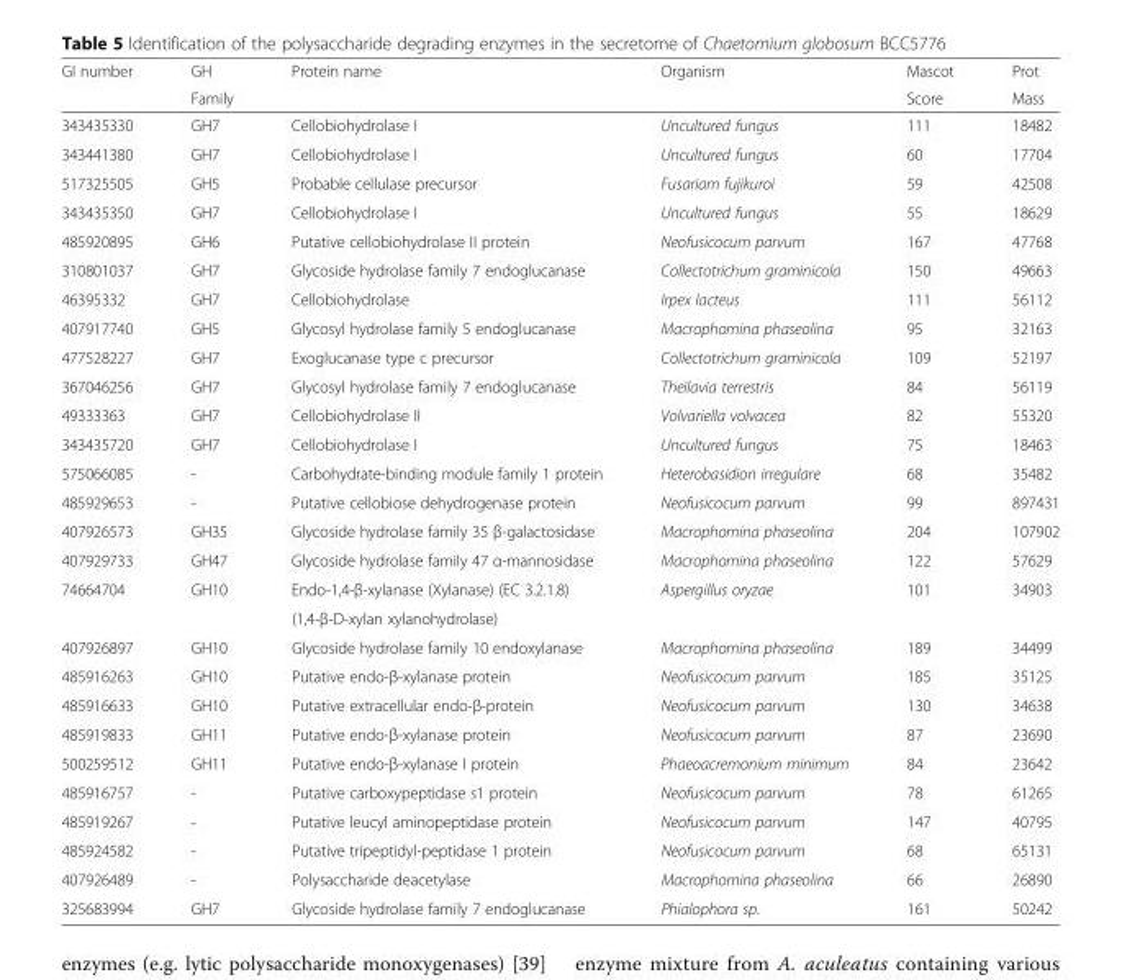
<table><thead><tr><td rowspan="2">GI number</td><td rowspan="2">GH Family</td><td rowspan="2">Protein name</td><td rowspan="2">Organism</td><td rowspan="2">Mascot Score</td><td rowspan="2">Prot Mass</td></tr><tr></tr></thead><tbody><tr><td>343435330</td><td>GH7</td><td>Cellobiohydrolase I</td><td>Uncultured fungus</td><td>111</td><td>18482</td></tr><tr><td>343441380</td><td>GH7</td><td>Cellobiohydrolase I</td><td>Uncultured fungus</td><td>60</td><td>17704</td></tr><tr><td>517325505</td><td>GH5</td><td>Probable cellulase precursor</td><td>Fusariam fujikuroi</td><td>59</td><td>42508</td></tr><tr><td>343435350</td><td>GH7</td><td>Cellobiohydrolase I</td><td>Uncultured fungus</td><td>55</td><td>18629</td></tr><tr><td>485920895</td><td>GH6</td><td>Putative cellobiohydrolase II protein</td><td>Neofusicocum parvum</td><td>167</td><td>47768</td></tr><tr><td>310801037</td><td>GH7</td><td>Glycoside hydrolase family 7 endoglucanase</td><td>Collectotrichum graminicola</td><td>150</td><td>49663</td></tr><tr><td>46395332</td><td>GH7</td><td>Cellobiohydrolase</td><td>Irpex lacteus</td><td>111</td><td>56112</td></tr><tr><td>407917740</td><td>GH5</td><td>Glycosyl hydrolase family 5 endoglucanase</td><td>Macrophomina phaseolina</td><td>95</td><td>32163</td></tr><tr><td>477528227</td><td>GH7</td><td>Exoglucanase type c precursor</td><td>Collectotrichum graminicola</td><td>109</td><td>52197</td></tr><tr><td>367046256</td><td>GH7</td><td>Glycosyl hydrolase family 7 endoglucanase</td><td>Theilavia terrestris</td><td>84</td><td>56119</td></tr><tr><td>49333363</td><td>GH7</td><td>Cellobiohydrolase II</td><td>Volvariella volvacea</td><td>82</td><td>55320</td></tr><tr><td>343435720</td><td>GH7</td><td>Cellobiohydrolase I</td><td>Uncultured fungus</td><td>75</td><td>18463</td></tr><tr><td>575066085</td><td>-</td><td>Carbohydrate-binding module family 1 protein</td><td>Heterobasidion irregulare</td><td>68</td><td>35482</td></tr><tr><td>485929653</td><td>-</td><td>Putative cellobiose dehydrogenase protein</td><td>Neofusicocum parvum</td><td>99</td><td>897431</td></tr><tr><td>407926573</td><td>GH35</td><td>Glycoside hydrolase family 35 β-galactosidase</td><td>Macrophomina phaseolina</td><td>204</td><td>107902</td></tr><tr><td>407929733</td><td>GH47</td><td>Glycoside hydrolase family 47 α-mannosidase</td><td>Macrophomina phaseolina</td><td>122</td><td>57629</td></tr><tr><td rowspan="2">74664704</td><td>GH10</td><td>Endo-1,4-β-xylanase (Xylanase) (EC 3.2.1.8)</td><td>Aspergillus oryzae</td><td>101</td><td>34903</td></tr><tr><td></td><td>(1,4-β-D-xylan xylanohydrolase)</td><td></td><td></td><td></td></tr><tr><td>407926897</td><td>GH10</td><td>Glycoside hydrolase family 10 endoxylanase</td><td>Macrophomina phaseolina</td><td>189</td><td>34499</td></tr><tr><td>485916263</td><td>GH10</td><td>Putative endo-β-xylanase protein</td><td>Neofusicocum parvum</td><td>185</td><td>35125</td></tr><tr><td>485916633</td><td>GH10</td><td>Putative extracellular endo-β-protein</td><td>Neofusicocum parvum</td><td>130</td><td>34638</td></tr><tr><td>485919833</td><td>GH11</td><td>Putative endo-β-xylanase protein</td><td>Neofusicocum parvum</td><td>87</td><td>23690</td></tr><tr><td>500259512</td><td>GH11</td><td>Putative endo-β-xylanase I protein</td><td>Phaeoacremonium minimum</td><td>84</td><td>23642</td></tr><tr><td>485916757</td><td>-</td><td>Putative carboxypeptidase s1 protein</td><td>Neofusicocum parvum</td><td>78</td><td>61265</td></tr><tr><td>485919267</td><td>-</td><td>Putative leucyl aminopeptidase protein</td><td>Neofusicocum parvum</td><td>147</td><td>40795</td></tr><tr><td>485924582</td><td>-</td><td>Putative tripeptidyl-peptidase 1 protein</td><td>Neofusicocum parvum</td><td>68</td><td>65131</td></tr><tr><td>407926489</td><td>-</td><td>Polysaccharide deacetylase</td><td>Macrophomina phaseolina</td><td>66</td><td>26890</td></tr><tr><td>325683994</td><td>GH7</td><td>Glycoside hydrolase family 7 endoglucanase</td><td>Phialophora sp.</td><td>161</td><td>50242</td></tr></tbody></table>